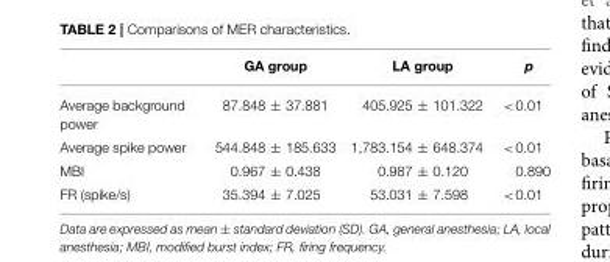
<table><thead><tr><td></td><td>GA group</td><td>LA group</td><td>p</td></tr></thead><tbody><tr><td>Average background power</td><td>87.848 ± 37.881</td><td>405.925 ± 101.322</td><td>&lt;0.01</td></tr><tr><td>Average spike power</td><td>544.848 ± 185.633</td><td>1,783.154 ± 648.374</td><td>&lt;0.01</td></tr><tr><td>MBI</td><td>0.967 ± 0.438</td><td>0.987 ± 0.120</td><td>0.890</td></tr><tr><td>FR (spike/s)</td><td>35.394 ± 7.025</td><td>53.031 ± 7.598</td><td>&lt;0.01</td></tr></tbody></table>